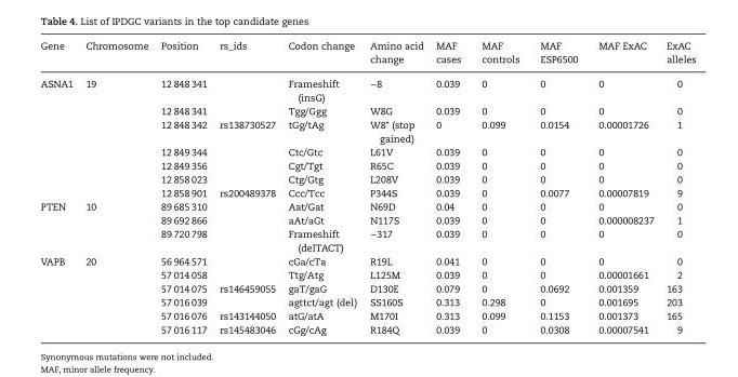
<table><thead><tr><td>Gene</td><td>Chromosome</td><td>Position</td><td>rs_ids</td><td>Codon change</td><td>Amino acid change</td><td>MAF cases</td><td>MAF controls</td><td>MAF ESP6500</td><td>MAF ExAC</td><td>ExAC alleles</td></tr></thead><tbody><tr><td rowspan="7">ASNA1</td><td>19</td><td>12 848 341</td><td></td><td>Frameshift (insG)</td><td>−8</td><td>0.039</td><td>0</td><td>0</td><td>0</td><td>0</td></tr><tr><td></td><td>12 848 341</td><td></td><td>Tgg/Ggg</td><td>W8G</td><td>0.039</td><td>0</td><td>0</td><td>0</td><td>0</td></tr><tr><td></td><td>12 848 342</td><td>rs138730527</td><td>tGg/tAg</td><td>W8* (stop gained)</td><td>0</td><td>0.099</td><td>0.0154</td><td>0.00001726</td><td>1</td></tr><tr><td></td><td>12 849 344</td><td></td><td>Ctc/Gtc</td><td>L61V</td><td>0.039</td><td>0</td><td>0</td><td>0</td><td>0</td></tr><tr><td></td><td>12 849 356</td><td></td><td>Cgt/Tgt</td><td>R65C</td><td>0.039</td><td>0</td><td>0</td><td>0</td><td>0</td></tr><tr><td></td><td>12 858 023</td><td></td><td>Ctg/Gtg</td><td>L208V</td><td>0.039</td><td>0</td><td>0</td><td>0</td><td>0</td></tr><tr><td></td><td>12 858 901</td><td>rs200489378</td><td>Ccc/Tcc</td><td>P344S</td><td>0.039</td><td>0</td><td>0.0077</td><td>0.00007819</td><td>9</td></tr><tr><td rowspan="3">PTEN</td><td>10</td><td>89 685 310</td><td></td><td>Aat/Gat</td><td>N69D</td><td>0.04</td><td>0</td><td>0</td><td>0</td><td>0</td></tr><tr><td></td><td>89 692 866</td><td></td><td>aAt/aGt</td><td>N117S</td><td>0.039</td><td>0</td><td>0</td><td>0.000008237</td><td>1</td></tr><tr><td></td><td>89 720 798</td><td></td><td>Frameshift (delTACT)</td><td>−317</td><td>0.039</td><td>0</td><td>0</td><td>0</td><td>0</td></tr><tr><td rowspan="6">VAPB</td><td>20</td><td>56 964 571</td><td></td><td>cGa/cTa</td><td>R19L</td><td>0.041</td><td>0</td><td>0</td><td>0</td><td>0</td></tr><tr><td></td><td>57 014 058</td><td></td><td>Ttg/Atg</td><td>L125M</td><td>0.039</td><td>0</td><td>0</td><td>0.00001661</td><td>2</td></tr><tr><td></td><td>57 014 075</td><td>rs146459055</td><td>gaT/gaG</td><td>D130E</td><td>0.079</td><td>0</td><td>0.0692</td><td>0.001359</td><td>163</td></tr><tr><td></td><td>57 016 039</td><td></td><td>agttct/agt (del)</td><td>SS160S</td><td>0.313</td><td>0.298</td><td>0</td><td>0.001695</td><td>203</td></tr><tr><td></td><td>57 016 076</td><td>rs143144050</td><td>atG/atA</td><td>M170I</td><td>0.313</td><td>0.099</td><td>0.1153</td><td>0.001373</td><td>165</td></tr><tr><td></td><td>57 016 117</td><td>rs145483046</td><td>cGg/cAg</td><td>R184Q</td><td>0.039</td><td>0</td><td>0.0308</td><td>0.00007541</td><td>9</td></tr></tbody></table>